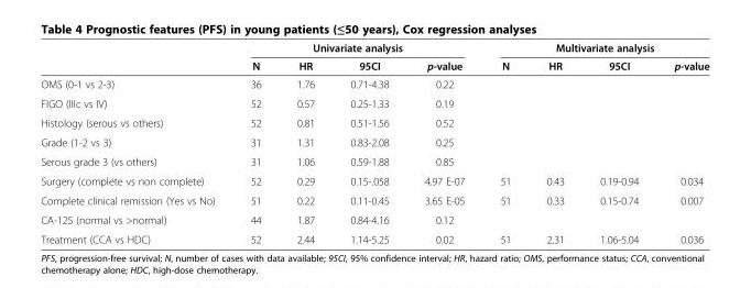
<table><thead><tr><td rowspan="2"></td><td colspan="4">Univariate analysis</td><td colspan="4">Multivariate analysis</td></tr><tr><td>N</td><td>HR</td><td>95CI</td><td>p-value</td><td>N</td><td>HR</td><td>95CI</td><td>p-value</td></tr></thead><tbody><tr><td>OMS (0-1 vs 2-3)</td><td>36</td><td>1.76</td><td>0.71-4.38</td><td>0.22</td><td></td><td></td><td></td><td></td></tr><tr><td>FIGO (IIIc vs IV)</td><td>52</td><td>0.57</td><td>0.25-1.33</td><td>0.19</td><td></td><td></td><td></td><td></td></tr><tr><td>Histology (serous vs others)</td><td>52</td><td>0.81</td><td>0.51-1.56</td><td>0.52</td><td></td><td></td><td></td><td></td></tr><tr><td>Grade (1-2 vs 3)</td><td>31</td><td>1.31</td><td>0.83-2.08</td><td>0.25</td><td></td><td></td><td></td><td></td></tr><tr><td>Serous grade 3 (vs others)</td><td>31</td><td>1.06</td><td>0.59-1.88</td><td>0.85</td><td></td><td></td><td></td><td></td></tr><tr><td>Surgery (complete vs non complete)</td><td>52</td><td>0.29</td><td>0.15-.058</td><td>4.97 E-07</td><td>51</td><td>0.43</td><td>0.19-0.94</td><td>0.034</td></tr><tr><td>Complete clinical remission (Yes vs No)</td><td>51</td><td>0.22</td><td>0.11-0.45</td><td>3.65 E-05</td><td>51</td><td>0.33</td><td>0.15-0.74</td><td>0.007</td></tr><tr><td>CA-125 (normal vs &gt;normal)</td><td>44</td><td>1.87</td><td>0.84-4.16</td><td>0.12</td><td></td><td></td><td></td><td></td></tr><tr><td>Treatment (CCA vs HDC)</td><td>52</td><td>2.44</td><td>1.14-5.25</td><td>0.02</td><td>51</td><td>2.31</td><td>1.06-5.04</td><td>0.036</td></tr></tbody></table>